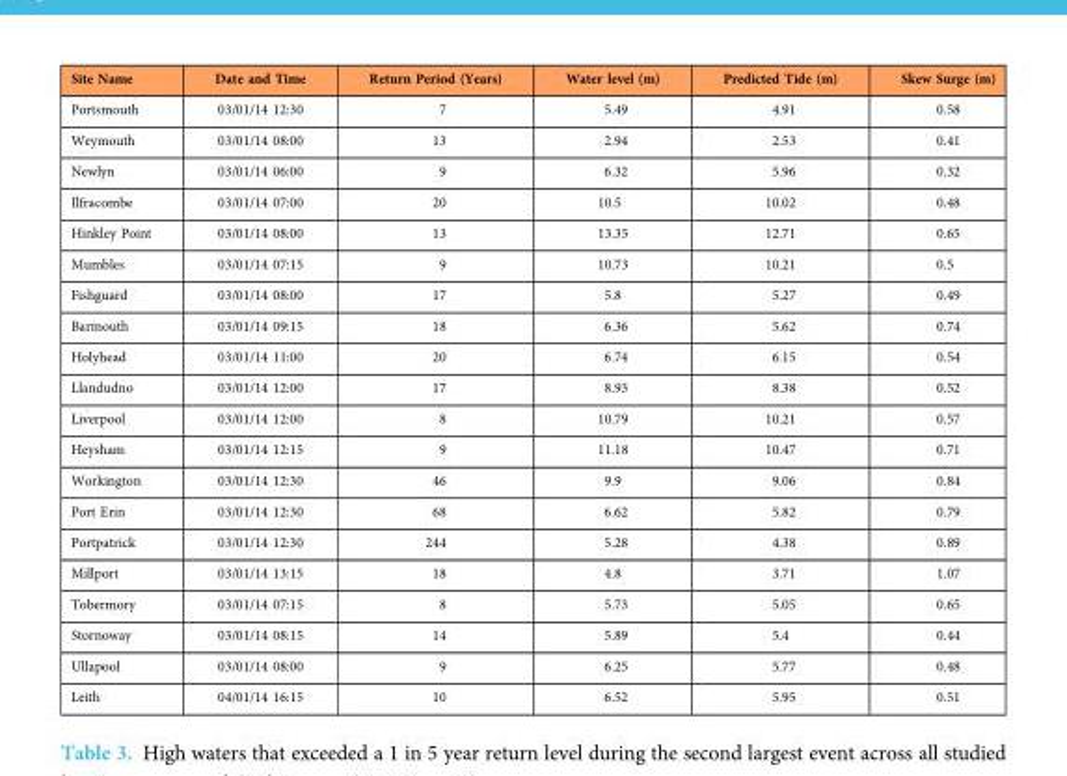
<table><thead><tr><td>Site Name</td><td>Date and Time</td><td>Return Period (Years)</td><td>Water level (m)</td><td>Predicted Tide (m)</td><td>Skew Surge (m)</td></tr></thead><tbody><tr><td>Portsmouth</td><td>03/01/14 12:30</td><td>7</td><td>5.49</td><td>4.91</td><td>0.58</td></tr><tr><td>Weymouth</td><td>03/01/14 08:00</td><td>13</td><td>2.94</td><td>2.53</td><td>0.41</td></tr><tr><td>Newlyn</td><td>03/01/14 06:00</td><td>9</td><td>6.32</td><td>5.96</td><td>0.32</td></tr><tr><td>Ilfracombe</td><td>03/01/14 07:00</td><td>20</td><td>10.5</td><td>10.02</td><td>0.48</td></tr><tr><td>Hinkley Point</td><td>03/01/14 08:00</td><td>13</td><td>13.35</td><td>12.71</td><td>0.65</td></tr><tr><td>Mumbles</td><td>03/01/14 07:15</td><td>9</td><td>10.73</td><td>10.21</td><td>0.5</td></tr><tr><td>Fishguard</td><td>03/01/14 08:00</td><td>17</td><td>5.8</td><td>5.27</td><td>0.49</td></tr><tr><td>Barmouth</td><td>03/01/14 09:15</td><td>18</td><td>6.36</td><td>5.62</td><td>0.74</td></tr><tr><td>Holyhead</td><td>03/01/14 11:00</td><td>20</td><td>6.74</td><td>6.15</td><td>0.54</td></tr><tr><td>Llandudno</td><td>03/01/14 12:00</td><td>17</td><td>8.93</td><td>8.38</td><td>0.52</td></tr><tr><td>Liverpool</td><td>03/01/14 12:00</td><td>8</td><td>10.79</td><td>10.21</td><td>0.57</td></tr><tr><td>Heysham</td><td>03/01/14 12:15</td><td>9</td><td>11.18</td><td>10.47</td><td>0.71</td></tr><tr><td>Workington</td><td>03/01/14 12:30</td><td>46</td><td>9.9</td><td>9.06</td><td>0.84</td></tr><tr><td>Port Erin</td><td>03/01/14 12:30</td><td>68</td><td>6.62</td><td>5.82</td><td>0.79</td></tr><tr><td>Portpatrick</td><td>03/01/14 12:30</td><td>244</td><td>5.28</td><td>4.38</td><td>0.89</td></tr><tr><td>Millport</td><td>03/01/14 13:15</td><td>18</td><td>4.8</td><td>3.71</td><td>1.07</td></tr><tr><td>Tobermory</td><td>03/01/14 07:15</td><td>8</td><td>5.73</td><td>5.05</td><td>0.65</td></tr><tr><td>Stornoway</td><td>03/01/14 08:15</td><td>14</td><td>5.89</td><td>5.4</td><td>0.44</td></tr><tr><td>Ullapool</td><td>03/01/14 08:00</td><td>9</td><td>6.25</td><td>5.77</td><td>0.48</td></tr><tr><td>Leith</td><td>04/01/14 16:15</td><td>10</td><td>6.52</td><td>5.95</td><td>0.51</td></tr></tbody></table>